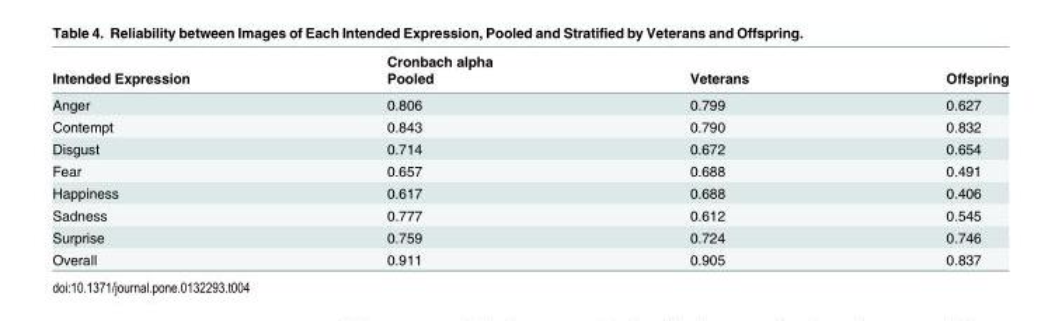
<table><thead><tr><td rowspan="2">Intended Expression</td><td rowspan="2">Cronbach alpha Pooled</td><td rowspan="2">Veterans</td><td rowspan="2">Offspring</td></tr><tr></tr></thead><tbody><tr><td>Anger</td><td>0.806</td><td>0.799</td><td>0.627</td></tr><tr><td>Contempt</td><td>0.843</td><td>0.790</td><td>0.832</td></tr><tr><td>Disgust</td><td>0.714</td><td>0.672</td><td>0.654</td></tr><tr><td>Fear</td><td>0.657</td><td>0.688</td><td>0.491</td></tr><tr><td>Happiness</td><td>0.617</td><td>0.688</td><td>0.406</td></tr><tr><td>Sadness</td><td>0.777</td><td>0.612</td><td>0.545</td></tr><tr><td>Surprise</td><td>0.759</td><td>0.724</td><td>0.746</td></tr><tr><td>Overall</td><td>0.911</td><td>0.905</td><td>0.837</td></tr></tbody></table>